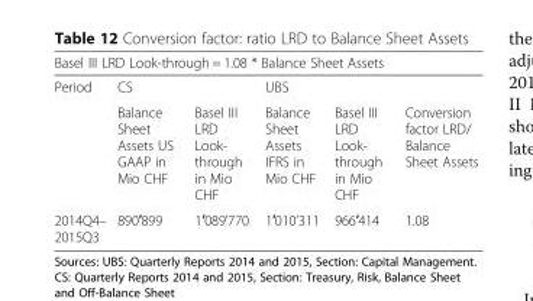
<table><thead><tr><td colspan="6">Basel III LRD Look-through = 1.08 * Balance Sheet Assets</td></tr><tr><td rowspan="2">Period</td><td colspan="2">CS</td><td colspan="3">UBS</td></tr><tr><td>Balance Sheet Assets US GAAP in Mio CHF</td><td>Basel III LRD Look- through in Mio CHF</td><td>Balance Sheet Assets IFRS in Mio CHF</td><td>Basel III LRD Look- through in Mio CHF</td><td>Conversion factor LRD/ Balance Sheet Assets</td></tr></thead><tbody><tr><td>2014Q4– 2015Q3</td><td>890′899</td><td>1′089’770</td><td>1′010’311</td><td>966′414</td><td>1.08</td></tr></tbody></table>